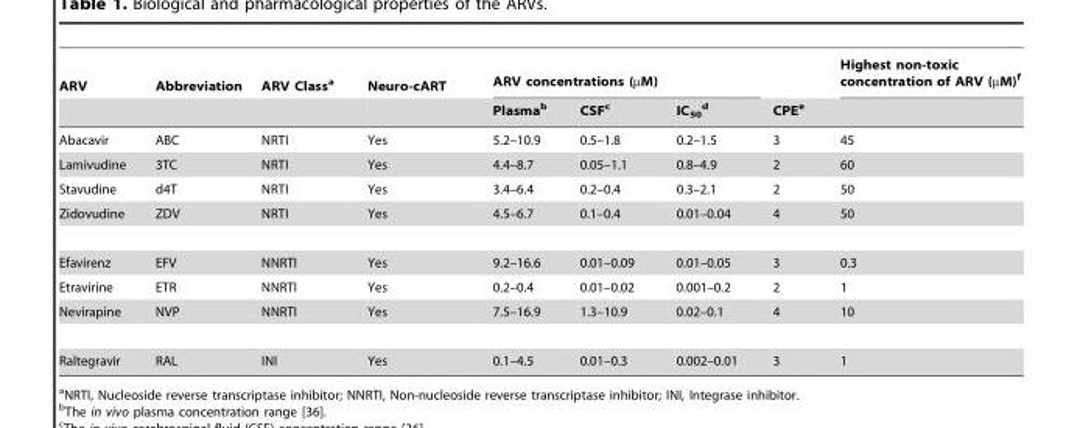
<table><thead><tr><td rowspan="2">ARV</td><td rowspan="2">Abbreviation</td><td rowspan="2">ARV Class<sup>a</sup></td><td rowspan="2">Neuro-cART</td><td colspan="3">ARV concentrations (µM)</td><td rowspan="2">CPE<sup>e</sup></td><td rowspan="2">Highest non-toxic concentration of ARV (µM)<sup>f</sup></td></tr><tr><td>Plasma<sup>b</sup></td><td>CSF<sup>c</sup></td><td>IC<sub>50</sub> d</td></tr></thead><tbody><tr><td>Abacavir</td><td>ABC</td><td>NRTI</td><td>Yes</td><td>5.2–10.9</td><td>0.5–1.8</td><td>0.2–1.5</td><td>3</td><td>45</td></tr><tr><td>Lamivudine</td><td>3TC</td><td>NRTI</td><td>Yes</td><td>4.4–8.7</td><td>0.05–1.1</td><td>0.8–4.9</td><td>2</td><td>60</td></tr><tr><td>Stavudine</td><td>d4T</td><td>NRTI</td><td>Yes</td><td>3.4–6.4</td><td>0.2–0.4</td><td>0.3–2.1</td><td>2</td><td>50</td></tr><tr><td>Zidovudine</td><td>ZDV</td><td>NRTI</td><td>Yes</td><td>4.5–6.7</td><td>0.1–0.4</td><td>0.01–0.04</td><td>4</td><td>50</td></tr><tr><td>Efavirenz</td><td>EFV</td><td>NNRTI</td><td>Yes</td><td>9.2–16.6</td><td>0.01–0.09</td><td>0.01–0.05</td><td>3</td><td>0.3</td></tr><tr><td>Etravirine</td><td>ETR</td><td>NNRTI</td><td>Yes</td><td>0.2–0.4</td><td>0.01–0.02</td><td>0.001–0.2</td><td>2</td><td>1</td></tr><tr><td>Nevirapine</td><td>NVP</td><td>NNRTI</td><td>Yes</td><td>7.5–16.9</td><td>1.3–10.9</td><td>0.02–0.1</td><td>4</td><td>10</td></tr><tr><td>Raltegravir</td><td>RAL</td><td>INI</td><td>Yes</td><td>0.1–4.5</td><td>0.01–0.3</td><td>0.002–0.01</td><td>3</td><td>1</td></tr></tbody></table>